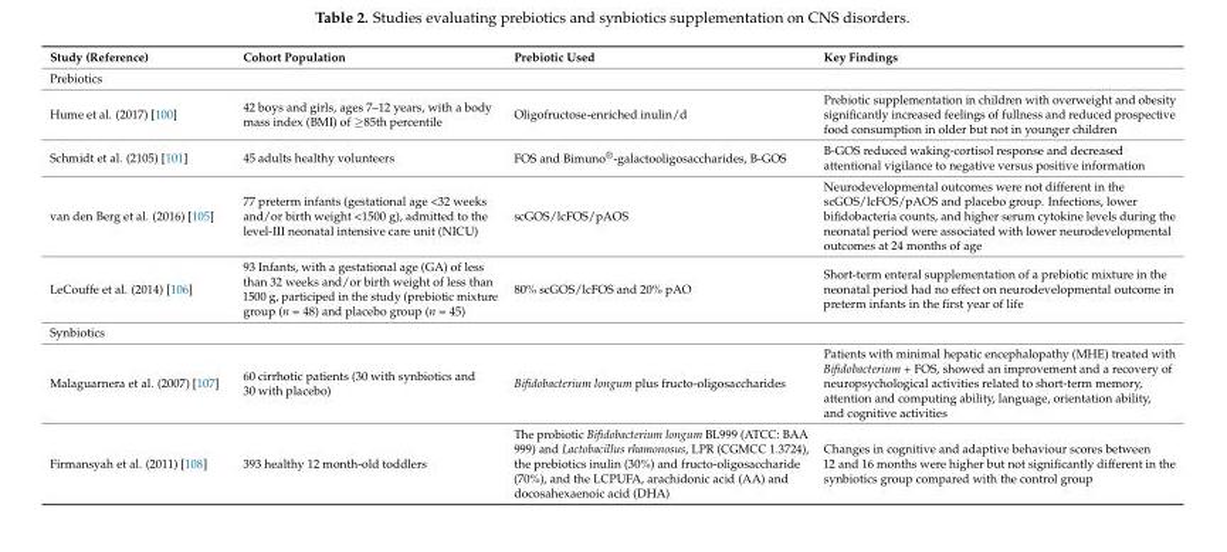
<table><thead><tr><td>Study (Reference)</td><td>Cohort Population</td><td>Prebiotic Used</td><td>Key Findings</td></tr></thead><tbody><tr><td colspan="4">Prebiotics</td></tr><tr><td>Hume et al. (2017) [100]</td><td>42 boys and girls, ages 7–12 years, with a body mass index (BMI) of ≥85th percentile</td><td>Oligofructose-enriched inulin/d</td><td>Prebiotic supplementation in children with overweight and obesity significantly increased feelings of fullness and reduced prospective food consumption in older but not in younger children</td></tr><tr><td>Schmidt et al. (2105) [101]</td><td>45 adults healthy volunteers</td><td>FOS and Bimuno<sup>®</sup>-galactooligosaccharides, B-GOS</td><td>B-GOS reduced waking-cortisol response and decreased attentional vigilance to negative versus positive information</td></tr><tr><td>van den Berg et al. (2016) [105]</td><td>77 preterm infants (gestational age &lt;32 weeks and/or birth weight &lt;1500 g), admitted to the level-III neonatal intensive care unit (NICU)</td><td>scGOS/lcFOS/pAOS</td><td>Neurodevelopmental outcomes were not different in the scGOS/lcFOS/pAOS and placebo group. Infections, lower bifidobacteria counts, and higher serum cytokine levels during the neonatal period were associated with lower neurodevelopmental outcomes at 24 months of age</td></tr><tr><td>LeCouffe et al. (2014) [106]</td><td>93 Infants, with a gestational age (GA) of less than 32 weeks and/or birth weight of less than 1500 g, participed in the study (prebiotic mixture group (n = 48) and placebo group (n = 45)</td><td>80% scGOS/lcFOS and 20% pAO</td><td>Short-term enteral supplementation of a prebiotic mixture in the neonatal period had no effect on neurodevelopmental outcome in preterm infants in the first year of life</td></tr><tr><td colspan="4">Synbiotics</td></tr><tr><td>Malaguarnera et al. (2007) [107]</td><td>60 cirrhotic patients (30 with synbiotics and 30 with placebo)</td><td>Bifidobacterium longum plus fructo-oligosaccharides</td><td>Patients with minimal hepatic encephalopathy (MHE) treated with Bifidobacterium + FOS, showed an improvement and a recovery of neuropsychological activities related to short-term memory, attention and computing ability, language, orientation ability, and cognitive activities</td></tr><tr><td>Firmansyah et al. (2011) [108]</td><td>393 healthy 12 month-old toddlers</td><td>The probiotic Bifidobacterium longum BL999 (ATCC: BAA 999) and Lactobacillus rhamonosus, LPR (CGMCC 1.3724), the prebiotics inulin (30%) and fructo-oligosaccharide (70%), and the LCPUFA, arachidonic acid (AA) and docosahexaenoic acid (DHA)</td><td>Changes in cognitive and adaptive behaviour scores between 12 and 16 months were higher but not significantly different in the synbiotics group compared with the control group</td></tr></tbody></table>